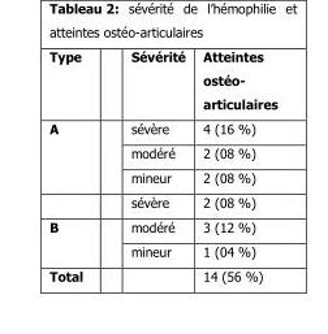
<table><thead><tr><td>Type</td><td>Sévérité</td><td>Atteintes ostéo- articulaires</td></tr></thead><tbody><tr><td rowspan="4">A</td><td>sévère</td><td>4 (16 %)</td></tr><tr><td>modéré</td><td>2 (08 %)</td></tr><tr><td>mineur</td><td>2 (08 %)</td></tr><tr><td>sévère</td><td>2 (08 %)</td></tr><tr><td rowspan="2">B</td><td>modéré</td><td>3 (12 %)</td></tr><tr><td>mineur</td><td>1 (04 %)</td></tr><tr><td>Total</td><td></td><td>14 (56 %)</td></tr></tbody></table>